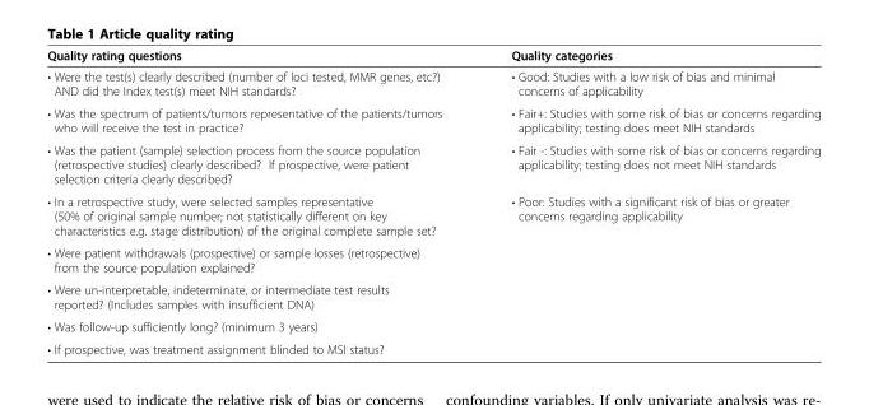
<table><thead><tr><td>Quality rating questions</td><td>Quality categories</td></tr></thead><tbody><tr><td>• Were the test(s) clearly described (number of loci tested, MMR genes, etc?) AND did the Index test(s) meet NIH standards?</td><td>• Good: Studies with a low risk of bias and minimal concerns of applicability</td></tr><tr><td>• Was the spectrum of patients/tumors representative of the patients/tumors who will receive the test in practice?</td><td>• Fair+: Studies with some risk of bias or concerns regarding applicability; testing does meet NIH standards</td></tr><tr><td>• Was the patient (sample) selection process from the source population (retrospective studies) clearly described? If prospective, were patient selection criteria clearly described?</td><td>• Fair -: Studies with some risk of bias or concerns regarding applicability; testing does not meet NIH standards</td></tr><tr><td>• In a retrospective study, were selected samples representative (50% of original sample number; not statistically different on key characteristics e.g. stage distribution) of the original complete sample set?</td><td rowspan="5">• Poor: Studies with a significant risk of bias or greater concerns regarding applicability</td></tr><tr><td>• Were patient withdrawals (prospective) or sample losses (retrospective) from the source population explained?</td></tr><tr><td>• Were un-interpretable, indeterminate, or intermediate test results reported? (Includes samples with insufficient DNA)</td></tr><tr><td>• Was follow-up sufficiently long? (minimum 3 years)</td></tr><tr><td>• If prospective, was treatment assignment blinded to MSI status?</td></tr></tbody></table>